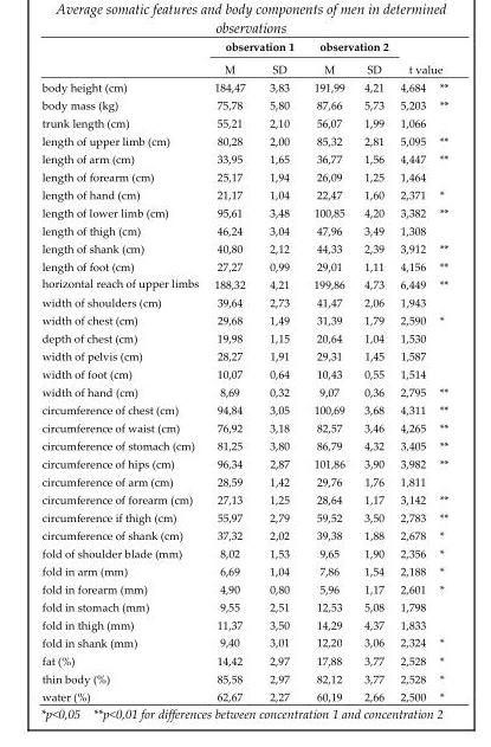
<table><thead><tr><td rowspan="2"></td><td colspan="2">observation 1</td><td colspan="2">observation 2</td><td rowspan="2">t value</td></tr><tr><td>M</td><td>SD</td><td>M</td><td>SD</td></tr></thead><tbody><tr><td>body height (cm)</td><td>184,47</td><td>3,83</td><td>191,99</td><td>4,21</td><td>4,684 **</td></tr><tr><td>body mass (kg)</td><td>75,78</td><td>5,80</td><td>87,66</td><td>5,73</td><td>5,203 **</td></tr><tr><td>trunk length (cm)</td><td>55,21</td><td>2,10</td><td>56,07</td><td>1,99</td><td>1,066</td></tr><tr><td>length of upper limb (cm)</td><td>80,28</td><td>2,00</td><td>85,32</td><td>2,81</td><td>5,095 **</td></tr><tr><td>length of arm (cm)</td><td>33,95</td><td>1,65</td><td>36,77</td><td>1,56</td><td>4,447 **</td></tr><tr><td>length of forearm (cm)</td><td>25,17</td><td>1,94</td><td>26,09</td><td>1,25</td><td>1,464</td></tr><tr><td>length of hand (cm)</td><td>21,17</td><td>1,04</td><td>22,47</td><td>1,60</td><td>2,371 *</td></tr><tr><td>length of lower limb (cm)</td><td>95,61</td><td>3,48</td><td>100,85</td><td>4,20</td><td>3,382 **</td></tr><tr><td>length of thigh (cm)</td><td>46,24</td><td>3,04</td><td>47,96</td><td>3,49</td><td>1,308</td></tr><tr><td>length of shank (cm)</td><td>40,80</td><td>2,12</td><td>44,33</td><td>2,39</td><td>3,912 **</td></tr><tr><td>length of foot (cm)</td><td>27,27</td><td>0,99</td><td>29,01</td><td>1,11</td><td>4,156 **</td></tr><tr><td>horizontal reach of upper limbs</td><td>188,32</td><td>4,21</td><td>199,86</td><td>4,73</td><td>6,449 **</td></tr><tr><td>width of shoulders (cm)</td><td>39,64</td><td>2,73</td><td>41,47</td><td>2,06</td><td>1,943</td></tr><tr><td>width of chest (cm)</td><td>29,68</td><td>1,49</td><td>31,39</td><td>1,79</td><td>2,590 *</td></tr><tr><td>depth of chest (cm)</td><td>19,98</td><td>1,15</td><td>20,64</td><td>1,04</td><td>1,530</td></tr><tr><td>width of pelvis (cm)</td><td>28,27</td><td>1,91</td><td>29,31</td><td>1,45</td><td>1,587</td></tr><tr><td>width of foot (cm)</td><td>10,07</td><td>0,64</td><td>10,43</td><td>0,55</td><td>1,514</td></tr><tr><td>width of hand (cm)</td><td>8,69</td><td>0,32</td><td>9,07</td><td>0,36</td><td>2,795 **</td></tr><tr><td>circumference of chest (cm)</td><td>94,84</td><td>3,05</td><td>100,69</td><td>3,68</td><td>4,311 **</td></tr><tr><td>circumference of waist (cm)</td><td>76,92</td><td>3,18</td><td>82,57</td><td>3,46</td><td>4,265 **</td></tr><tr><td>circumference of stomach (cm)</td><td>81,25</td><td>3,80</td><td>86,79</td><td>4,32</td><td>3,405 **</td></tr><tr><td>circumference of hips (cm)</td><td>96,34</td><td>2,87</td><td>101,86</td><td>3,90</td><td>3,982 **</td></tr><tr><td>circumference of arm (cm)</td><td>28,59</td><td>1,42</td><td>29,76</td><td>1,76</td><td>1,811</td></tr><tr><td>circumference of forearm (cm)</td><td>27,13</td><td>1,25</td><td>28,64</td><td>1,17</td><td>3,142 **</td></tr><tr><td>circumference if thigh (cm)</td><td>55,97</td><td>2,79</td><td>59,52</td><td>3,50</td><td>2,783 **</td></tr><tr><td>circumference of shank (cm)</td><td>37,32</td><td>2,02</td><td>39,38</td><td>1,88</td><td>2,678 *</td></tr><tr><td>fold of shoulder blade (mm)</td><td>8,02</td><td>1,53</td><td>9,65</td><td>1,90</td><td>2,356 *</td></tr><tr><td>fold in arm (mm)</td><td>6,69</td><td>1,04</td><td>7,86</td><td>1,54</td><td>2,188 *</td></tr><tr><td>fold in forearm (mm)</td><td>4,90</td><td>0,80</td><td>5,96</td><td>1,17</td><td>2,601 *</td></tr><tr><td>fold in stomach (mm)</td><td>9,55</td><td>2,51</td><td>12,53</td><td>5,08</td><td>1,798</td></tr><tr><td>fold in thigh (mm)</td><td>11,37</td><td>3,50</td><td>14,29</td><td>4,37</td><td>1,833</td></tr><tr><td>fold in shank (mm)</td><td>9,40</td><td>3,01</td><td>12,20</td><td>3,06</td><td>2,324 *</td></tr><tr><td>fat (%)</td><td>14,42</td><td>2,97</td><td>17,88</td><td>3,77</td><td>2,528 *</td></tr><tr><td>thin body (%)</td><td>85,58</td><td>2,97</td><td>82,12</td><td>3,77</td><td>2,528 *</td></tr><tr><td>water (%)</td><td>62,67</td><td>2,27</td><td>60,19</td><td>2,66</td><td>2,500 *</td></tr></tbody></table>